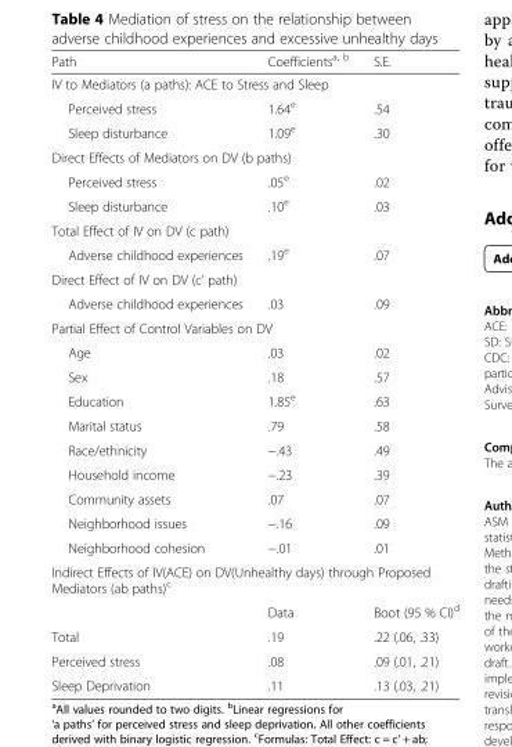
<table><thead><tr><td>Path</td><td>Coefficients<sup>a, b</sup></td><td>S.E.</td></tr></thead><tbody><tr><td colspan="3">IV to Mediators (a paths): ACE to Stress and Sleep</td></tr><tr><td>Perceived stress</td><td>1.64<sup>e</sup></td><td>.54</td></tr><tr><td>Sleep disturbance</td><td>1.09<sup>e</sup></td><td>.30</td></tr><tr><td colspan="3">Direct Effects of Mediators on DV (b paths)</td></tr><tr><td>Perceived stress</td><td>.05<sup>e</sup></td><td>.02</td></tr><tr><td>Sleep disturbance</td><td>.10<sup>e</sup></td><td>.03</td></tr><tr><td colspan="3">Total Effect of IV on DV (c path)</td></tr><tr><td>Adverse childhood experiences</td><td>.19<sup>e</sup></td><td>.07</td></tr><tr><td colspan="3">Direct Effect of IV on DV (c’ path)</td></tr><tr><td>Adverse childhood experiences</td><td>.03</td><td>.09</td></tr><tr><td colspan="3">Partial Effect of Control Variables on DV</td></tr><tr><td>Age</td><td>.03</td><td>.02</td></tr><tr><td>Sex</td><td>.18</td><td>.57</td></tr><tr><td>Education</td><td>1.85<sup>e</sup></td><td>.63</td></tr><tr><td>Marital status</td><td>.79</td><td>.58</td></tr><tr><td>Race/ethnicity</td><td>−.43</td><td>.49</td></tr><tr><td>Household income</td><td>−.23</td><td>.39</td></tr><tr><td>Community assets</td><td>.07</td><td>.07</td></tr><tr><td>Neighborhood issues</td><td>−.16</td><td>.09</td></tr><tr><td>Neighborhood cohesion</td><td>−.01</td><td>.01</td></tr><tr><td colspan="3">Indirect Effects of IV(ACE) on DV(Unhealthy days) through Proposed Mediators (ab paths)<sup>c</sup></td></tr><tr><td></td><td>Data</td><td>Boot (95 % CI)<sup>d</sup></td></tr><tr><td>Total</td><td>.19</td><td>.22 (.06, .33)</td></tr><tr><td>Perceived stress</td><td>.08</td><td>.09 (.01, .21)</td></tr><tr><td>Sleep Deprivation</td><td>.11</td><td>.13 (.03, .21)</td></tr></tbody></table>